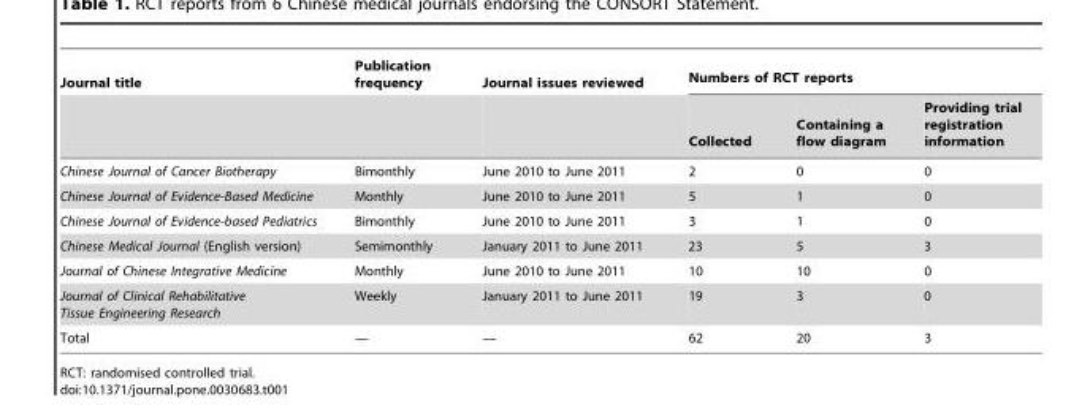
<table><thead><tr><td rowspan="2">Journal title</td><td rowspan="2">Publication frequency</td><td rowspan="2">Journal issues reviewed</td><td colspan="3">Numbers of RCT reports</td></tr><tr><td>Collected</td><td>Containing a flow diagram</td><td>Providing trial registration information</td></tr></thead><tbody><tr><td>Chinese Journal of Cancer Biotherapy</td><td>Bimonthly</td><td>June 2010 to June 2011</td><td>2</td><td>0</td><td>0</td></tr><tr><td>Chinese Journal of Evidence-Based Medicine</td><td>Monthly</td><td>June 2010 to June 2011</td><td>5</td><td>1</td><td>0</td></tr><tr><td>Chinese Journal of Evidence-based Pediatrics</td><td>Bimonthly</td><td>June 2010 to June 2011</td><td>3</td><td>1</td><td>0</td></tr><tr><td>Chinese Medical Journal (English version)</td><td>Semimonthly</td><td>January 2011 to June 2011</td><td>23</td><td>5</td><td>3</td></tr><tr><td>Journal of Chinese Integrative Medicine</td><td>Monthly</td><td>June 2010 to June 2011</td><td>10</td><td>10</td><td>0</td></tr><tr><td>Journal of Clinical Rehabilitative Tissue Engineering Research</td><td>Weekly</td><td>January 2011 to June 2011</td><td>19</td><td>3</td><td>0</td></tr><tr><td>Total</td><td>—</td><td>—</td><td>62</td><td>20</td><td>3</td></tr></tbody></table>